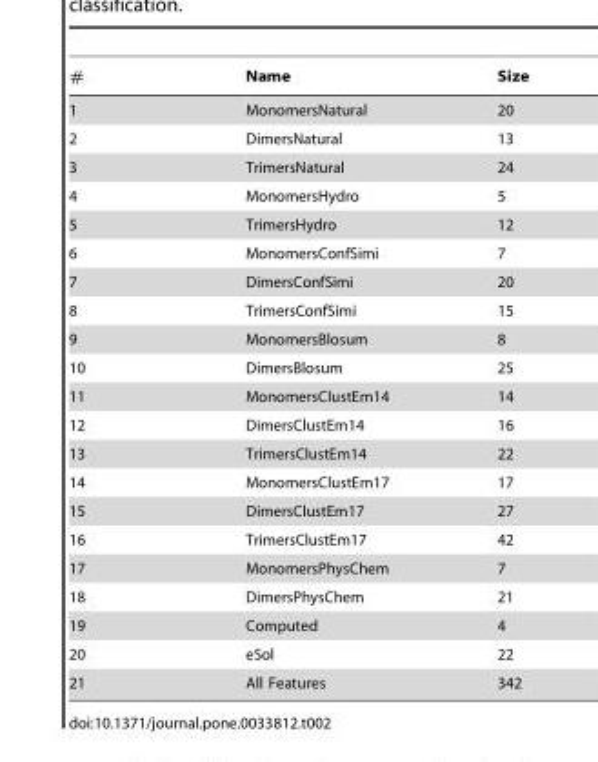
<table><thead><tr><td>#</td><td>Name</td><td>Size</td></tr></thead><tbody><tr><td>1</td><td>MonomersNatural</td><td>20</td></tr><tr><td>2</td><td>DimersNatural</td><td>13</td></tr><tr><td>3</td><td>TrimersNatural</td><td>24</td></tr><tr><td>4</td><td>MonomersHydro</td><td>5</td></tr><tr><td>5</td><td>TrimersHydro</td><td>12</td></tr><tr><td>6</td><td>MonomersConfSimi</td><td>7</td></tr><tr><td>7</td><td>DimersConfSimi</td><td>20</td></tr><tr><td>8</td><td>TrimersConfSimi</td><td>15</td></tr><tr><td>9</td><td>MonomersBlosum</td><td>8</td></tr><tr><td>10</td><td>DimersBlosum</td><td>25</td></tr><tr><td>11</td><td>MonomersClustEm14</td><td>14</td></tr><tr><td>12</td><td>DimersClustEm14</td><td>16</td></tr><tr><td>13</td><td>TrimersClustEm14</td><td>22</td></tr><tr><td>14</td><td>MonomersClustEm17</td><td>17</td></tr><tr><td>15</td><td>DimersClustEm17</td><td>27</td></tr><tr><td>16</td><td>TrimersClustEm17</td><td>42</td></tr><tr><td>17</td><td>MonomersPhysChem</td><td>7</td></tr><tr><td>18</td><td>DimersPhysChem</td><td>21</td></tr><tr><td>19</td><td>Computed</td><td>4</td></tr><tr><td>20</td><td>eSol</td><td>22</td></tr><tr><td>21</td><td>All Features</td><td>342</td></tr></tbody></table>